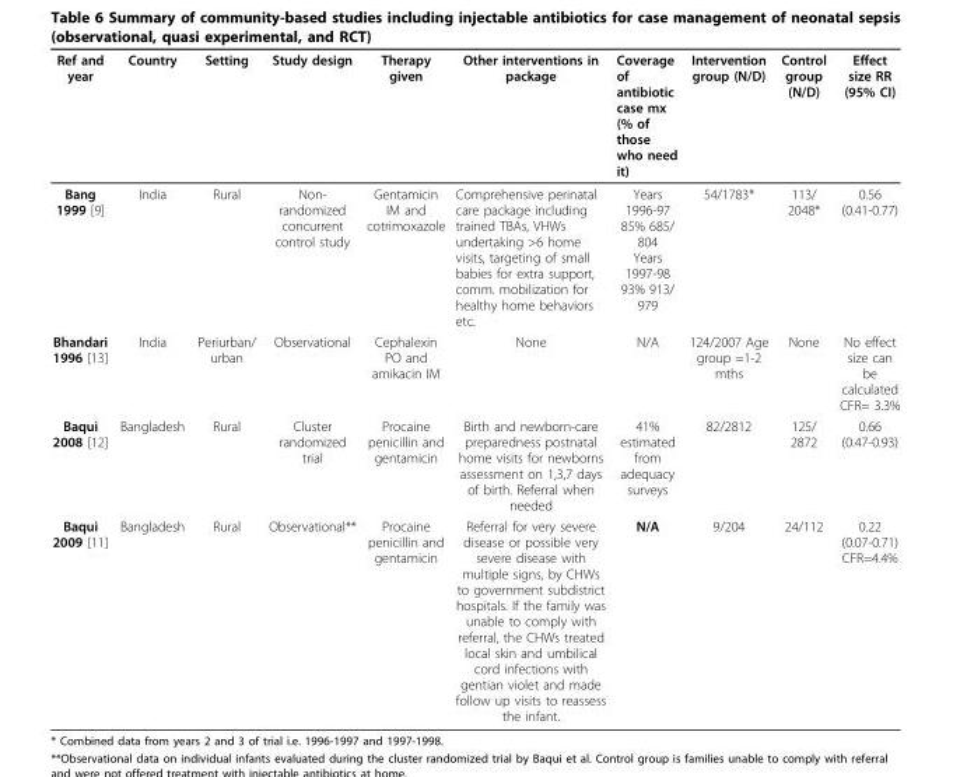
<table><thead><tr><td>Ref and year</td><td>Country</td><td>Setting</td><td>Study design</td><td>Therapy given</td><td>Other interventions in package</td><td>Coverage of antibiotic case mx (% of those who need it)</td><td>Intervention group (N/D)</td><td>Control group (N/D)</td><td>Effect size RR (95% CI)</td></tr></thead><tbody><tr><td>Bang 1999 [9]</td><td>India</td><td>Rural</td><td>Non- randomized concurrent control study</td><td>Gentamicin IM and cotrimoxazole</td><td>Comprehensive perinatal care package including trained TBAs, VHWs undertaking &gt;6 home visits, targeting of small babies for extra support, comm. mobilization for healthy home behaviors etc.</td><td>Years 1996-97 85% 685/ 804 Years 1997-98 93% 913/ 979</td><td>54/1783*</td><td>113/ 2048*</td><td>0.56 (0.41-0.77)</td></tr><tr><td>Bhandari 1996 [13]</td><td>India</td><td>Periurban/ urban</td><td>Observational</td><td>Cephalexin PO and amikacin IM</td><td>None</td><td>N/A</td><td>124/2007 Age group =1-2 mths</td><td>None</td><td>No effect size can be calculated CFR= 3.3%</td></tr><tr><td>Baqui 2008 [12]</td><td>Bangladesh</td><td>Rural</td><td>Cluster randomized trial</td><td>Procaine penicillin and gentamicin</td><td>Birth and newborn-care preparedness postnatal home visits for newborns assessment on 1,3,7 days of birth. Referral when needed</td><td>41% estimated from adequacy surveys</td><td>82/2812</td><td>125/ 2872</td><td>0.66 (0.47-0.93)</td></tr><tr><td>Baqui 2009 [11]</td><td>Bangladesh</td><td>Rural</td><td>Observational**</td><td>Procaine penicillin and gentamicin</td><td>Referral for very severe disease or possible very severe disease with multiple signs, by CHWs to government subdistrict hospitals. If the family was unable to comply with referral, the CHWs treated local skin and umbilical cord infections with gentian violet and made follow up visits to reassess the infant.</td><td>N/A</td><td>9/204</td><td>24/112</td><td>0.22 (0.07-0.71) CFR=4.4%</td></tr></tbody></table>